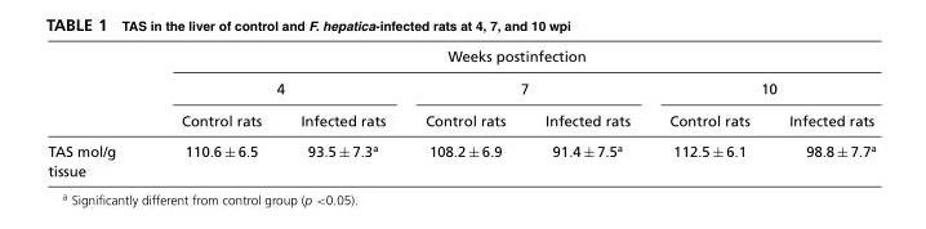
<table><thead><tr><td rowspan="3"></td><td colspan="6">Weeks postinfection</td></tr><tr><td colspan="2">4</td><td colspan="2">7</td><td colspan="2">10</td></tr><tr><td>Control rats</td><td>Infected rats</td><td>Control rats</td><td>Infected rats</td><td>Control rats</td><td>Infected rats</td></tr></thead><tbody><tr><td>TAS mol/g tissue</td><td>110.6 ± 6.5</td><td>93.5 ± 7.3<sup>a</sup></td><td>108.2 ± 6.9</td><td>91.4 ± 7.5<sup>a</sup></td><td>112.5 ± 6.1</td><td>98.8 ± 7.7<sup>a</sup></td></tr></tbody></table>